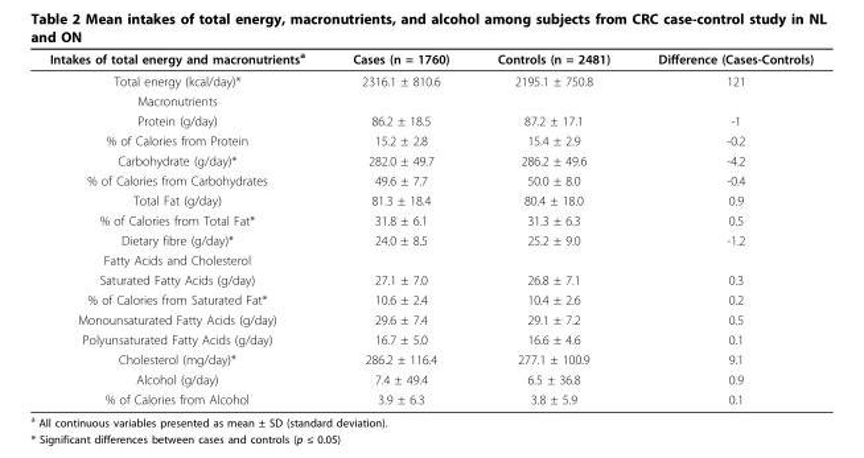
<table><thead><tr><td>Intakes of total energy and macronutrients<sup>a</sup></td><td>Cases (n = 1760)</td><td>Controls (n = 2481)</td><td>Difference (Cases-Controls)</td></tr></thead><tbody><tr><td>Total energy (kcal/day)*</td><td>2316.1 ± 810.6</td><td>2195.1 ± 750.8</td><td>121</td></tr><tr><td colspan="4">Macronutrients</td></tr><tr><td>Protein (g/day)</td><td>86.2 ± 18.5</td><td>87.2 ± 17.1</td><td>-1</td></tr><tr><td>% of Calories from Protein</td><td>15.2 ± 2.8</td><td>15.4 ± 2.9</td><td>-0.2</td></tr><tr><td>Carbohydrate (g/day)*</td><td>282.0 ± 49.7</td><td>286.2 ± 49.6</td><td>-4.2</td></tr><tr><td>% of Calories from Carbohydrates</td><td>49.6 ± 7.7</td><td>50.0 ± 8.0</td><td>-0.4</td></tr><tr><td>Total Fat (g/day)</td><td>81.3 ± 18.4</td><td>80.4 ± 18.0</td><td>0.9</td></tr><tr><td>% of Calories from Total Fat*</td><td>31.8 ± 6.1</td><td>31.3 ± 6.3</td><td>0.5</td></tr><tr><td>Dietary fibre (g/day)*</td><td>24.0 ± 8.5</td><td>25.2 ± 9.0</td><td>-1.2</td></tr><tr><td colspan="4">Fatty Acids and Cholesterol</td></tr><tr><td>Saturated Fatty Acids (g/day)</td><td>27.1 ± 7.0</td><td>26.8 ± 7.1</td><td>0.3</td></tr><tr><td>% of Calories from Saturated Fat*</td><td>10.6 ± 2.4</td><td>10.4 ± 2.6</td><td>0.2</td></tr><tr><td>Monounsaturated Fatty Acids (g/day)</td><td>29.6 ± 7.4</td><td>29.1 ± 7.2</td><td>0.5</td></tr><tr><td>Polyunsaturated Fatty Acids (g/day)</td><td>16.7 ± 5.0</td><td>16.6 ± 4.6</td><td>0.1</td></tr><tr><td>Cholesterol (mg/day)*</td><td>286.2 ± 116.4</td><td>277.1 ± 100.9</td><td>9.1</td></tr><tr><td>Alcohol (g/day)</td><td>7.4 ± 49.4</td><td>6.5 ± 36.8</td><td>0.9</td></tr><tr><td>% of Calories from Alcohol</td><td>3.9 ± 6.3</td><td>3.8 ± 5.9</td><td>0.1</td></tr></tbody></table>